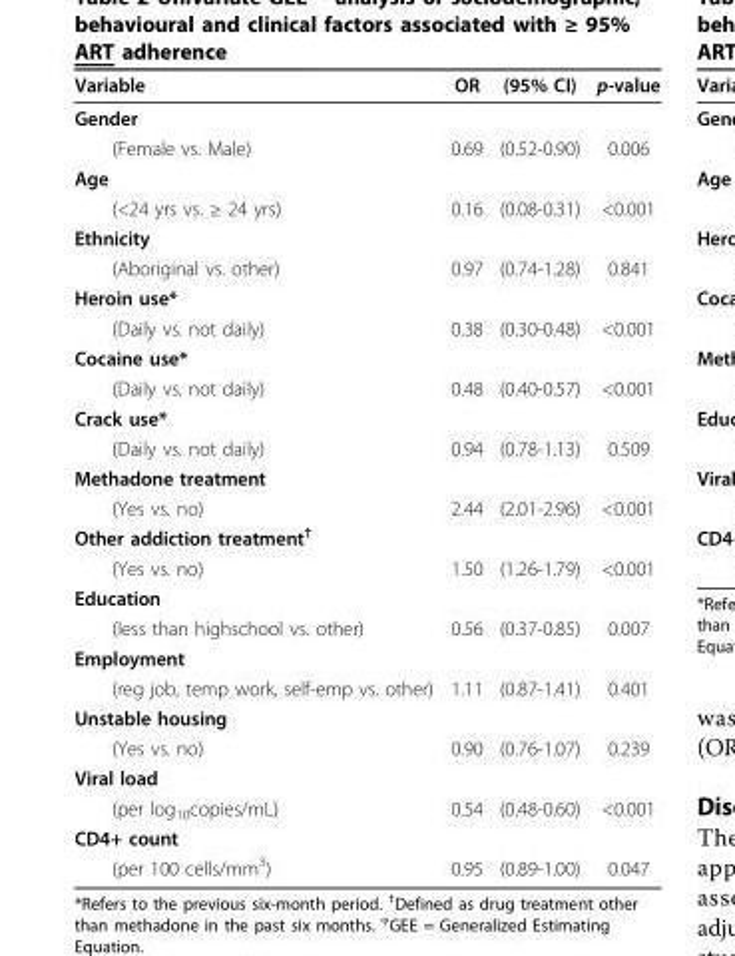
<table><thead><tr><td>Variable</td><td>OR</td><td>(95% CI)</td><td>p-value</td></tr></thead><tbody><tr><td colspan="4">Gender</td></tr><tr><td>(Female vs. Male)</td><td>0.69</td><td>(0.52-0.90)</td><td>0.006</td></tr><tr><td colspan="4">Age</td></tr><tr><td>(&lt;24 yrs vs. ≥ 24 yrs)</td><td>0.16</td><td>(0.08-0.31)</td><td>&lt;0.001</td></tr><tr><td colspan="4">Ethnicity</td></tr><tr><td>(Aboriginal vs. other)</td><td>0.97</td><td>(0.74-1.28)</td><td>0.841</td></tr><tr><td colspan="4">Heroin use*</td></tr><tr><td>(Daily vs. not daily)</td><td>0.38</td><td>(0.30-0.48)</td><td>&lt;0.001</td></tr><tr><td colspan="4">Cocaine use*</td></tr><tr><td>(Daily vs. not daily)</td><td>0.48</td><td>(0.40-0.57)</td><td>&lt;0.001</td></tr><tr><td colspan="4">Crack use*</td></tr><tr><td>(Daily vs. not daily)</td><td>0.94</td><td>(0.78-1.13)</td><td>0.509</td></tr><tr><td colspan="4">Methadone treatment</td></tr><tr><td>(Yes vs. no)</td><td>2.44</td><td>(2.01-2.96)</td><td>&lt;0.001</td></tr><tr><td colspan="4">Other addiction treatment<sup>†</sup></td></tr><tr><td>(Yes vs. no)</td><td>1.50</td><td>(1.26-1.79)</td><td>&lt;0.001</td></tr><tr><td colspan="4">Education</td></tr><tr><td>(less than highschool vs. other)</td><td>0.56</td><td>(0.37-0.85)</td><td>0.007</td></tr><tr><td colspan="4">Employment</td></tr><tr><td>(reg job, temp work, self-emp vs. other)</td><td>1.11</td><td>(0.87-1.41)</td><td>0.401</td></tr><tr><td colspan="4">Unstable housing</td></tr><tr><td>(Yes vs. no)</td><td>0.90</td><td>(0.76-1.07)</td><td>0.239</td></tr><tr><td colspan="4">Viral load</td></tr><tr><td>(per log<sub>10</sub>copies/mL)</td><td>0.54</td><td>(0.48-0.60)</td><td>&lt;0.001</td></tr><tr><td colspan="4">CD4+ count</td></tr><tr><td>(per 100 cells/mm<sup>3</sup>)</td><td>0.95</td><td>(0.89-1.00)</td><td>0.047</td></tr></tbody></table>